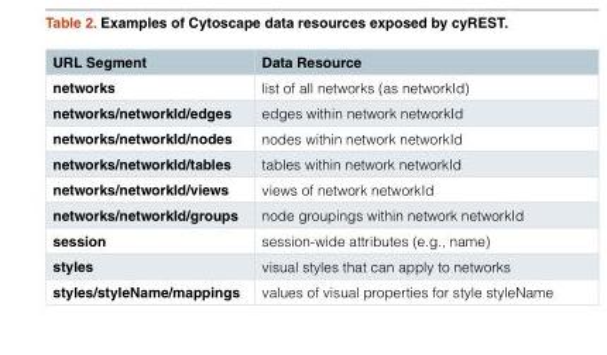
<table><thead><tr><td>URL Segment</td><td>Data Resource</td></tr></thead><tbody><tr><td>networks</td><td>list of all networks (as networkId)</td></tr><tr><td>networks/networkId/edges</td><td>edges within network networkId</td></tr><tr><td>networks/networkId/nodes</td><td>nodes within network networkId</td></tr><tr><td>networks/networkId/tables</td><td>tables within network networkId</td></tr><tr><td>networks/networkId/views</td><td>views of network networkId</td></tr><tr><td>networks/networkId/groups</td><td>node groupings within network networkId</td></tr><tr><td>session</td><td>session-wide attributes (e.g., name)</td></tr><tr><td>styles</td><td>visual styles that can apply to networks</td></tr><tr><td>styles/styleName/mappings</td><td>values of visual properties for style styleName</td></tr></tbody></table>